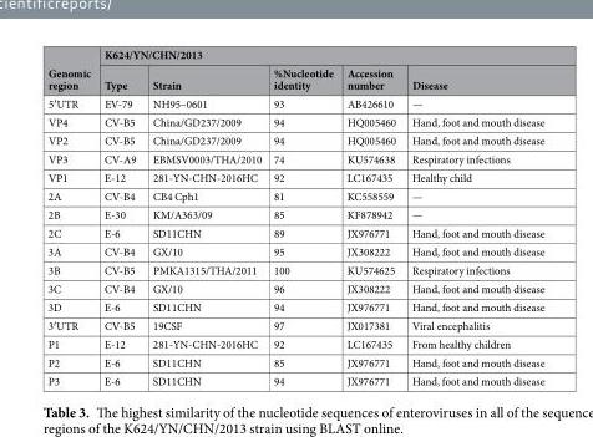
<table><thead><tr><td rowspan="2">Genomic region</td><td colspan="5">K624/YN/CHN/2013</td></tr><tr><td>Type</td><td>Strain</td><td>%Nucleotide identity</td><td>Accession number</td><td>Disease</td></tr></thead><tbody><tr><td>5′UTR</td><td>EV-79</td><td>NH95–0601</td><td>93</td><td>AB426610</td><td>—</td></tr><tr><td>VP4</td><td>CV-B5</td><td>China/GD237/2009</td><td>94</td><td>HQ005460</td><td>Hand, foot and mouth disease</td></tr><tr><td>VP2</td><td>CV-B5</td><td>China/GD237/2009</td><td>94</td><td>HQ005460</td><td>Hand, foot and mouth disease</td></tr><tr><td>VP3</td><td>CV-A9</td><td>EBMSV0003/THA/2010</td><td>74</td><td>KU574638</td><td>Respiratory infections</td></tr><tr><td>VP1</td><td>E-12</td><td>281-YN-CHN-2016HC</td><td>92</td><td>LC167435</td><td>Healthy child</td></tr><tr><td>2A</td><td>CV-B4</td><td>CB4 Cph1</td><td>81</td><td>KC558559</td><td>—</td></tr><tr><td>2B</td><td>E-30</td><td>KM/A363/09</td><td>85</td><td>KF878942</td><td>—</td></tr><tr><td>2C</td><td>E-6</td><td>SD11CHN</td><td>89</td><td>JX976771</td><td>Hand, foot and mouth disease</td></tr><tr><td>3A</td><td>CV-B4</td><td>GX/10</td><td>95</td><td>JX308222</td><td>Hand, foot and mouth disease</td></tr><tr><td>3B</td><td>CV-B5</td><td>PMKA1315/THA/2011</td><td>100</td><td>KU574625</td><td>Respiratory infections</td></tr><tr><td>3C</td><td>CV-B4</td><td>GX/10</td><td>96</td><td>JX308222</td><td>Hand, foot and mouth disease</td></tr><tr><td>3D</td><td>E-6</td><td>SD11CHN</td><td>94</td><td>JX976771</td><td>Hand, foot and mouth disease</td></tr><tr><td>3′UTR</td><td>CV-B5</td><td>19CSF</td><td>97</td><td>JX017381</td><td>Viral encephalitis</td></tr><tr><td>P1</td><td>E-12</td><td>281-YN-CHN-2016HC</td><td>92</td><td>LC167435</td><td>From healthy children</td></tr><tr><td>P2</td><td>E-6</td><td>SD11CHN</td><td>85</td><td>JX976771</td><td>Hand, foot and mouth disease</td></tr><tr><td>P3</td><td>E-6</td><td>SD11CHN</td><td>94</td><td>JX976771</td><td>Hand, foot and mouth disease</td></tr></tbody></table>